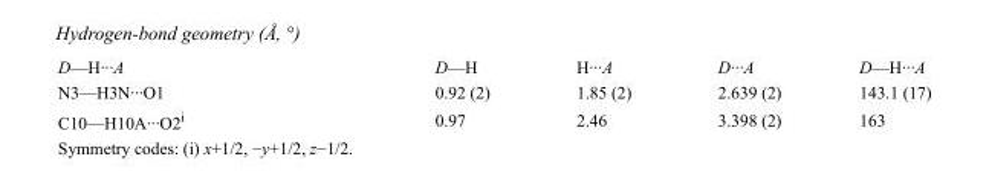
<table><tbody><tr><td>D—H···A</td><td>D—H</td><td>H···A</td><td>D···A</td><td>D—H···A</td></tr><tr><td>N3—H3N···O1</td><td>0.92 (2)</td><td>1.85 (2)</td><td>2.639 (2)</td><td>143.1 (17)</td></tr><tr><td>C10—H10A···O2<sup>i</sup></td><td>0.97</td><td>2.46</td><td>3.398 (2)</td><td>163</td></tr></tbody></table>